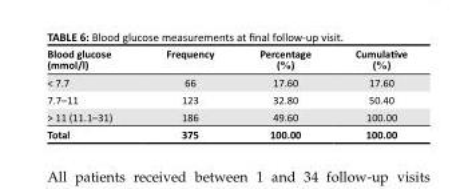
<table><thead><tr><td>Blood glucose (mmol/l)</td><td>Frequency</td><td>Percentage (%)</td><td>Cumulative (%)</td></tr></thead><tbody><tr><td>&lt; 7.7</td><td>66</td><td>17.60</td><td>17.60</td></tr><tr><td>7.7–11</td><td>123</td><td>32.80</td><td>50.40</td></tr><tr><td>&gt; 11 (11.1–31)</td><td>186</td><td>49.60</td><td>100.00</td></tr><tr><td>Total</td><td>375</td><td>100.00</td><td>100.00</td></tr></tbody></table>